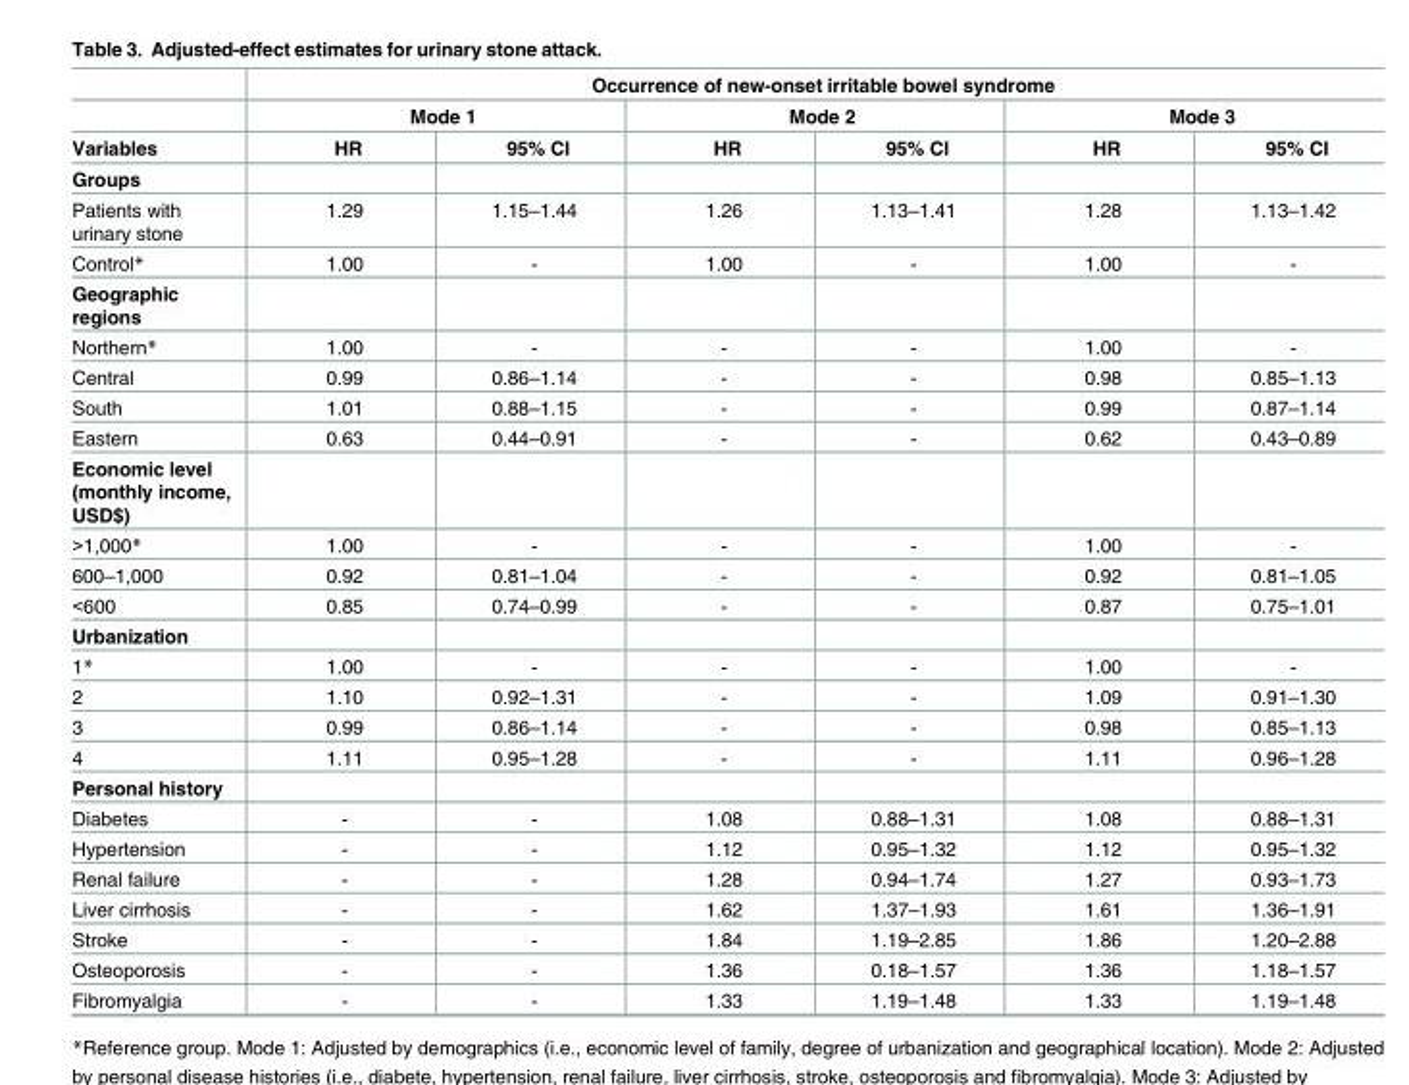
<table><thead><tr><td rowspan="3">Variables</td><td colspan="6">Occurrence of new-onset irritable bowel syndrome</td></tr><tr><td colspan="2">Mode 1</td><td colspan="2">Mode 2</td><td colspan="2">Mode 3</td></tr><tr><td>HR</td><td>95% CI</td><td>HR</td><td>95% CI</td><td>HR</td><td>95% CI</td></tr></thead><tbody><tr><td colspan="7">Groups</td></tr><tr><td>Patients with urinary stone</td><td>1.29</td><td>1.15–1.44</td><td>1.26</td><td>1.13–1.41</td><td>1.28</td><td>1.13–1.42</td></tr><tr><td>Control*</td><td>1.00</td><td>-</td><td>1.00</td><td>-</td><td>1.00</td><td>-</td></tr><tr><td colspan="7">Geographic regions</td></tr><tr><td>Northern*</td><td>1.00</td><td>-</td><td>-</td><td>-</td><td>1.00</td><td>-</td></tr><tr><td>Central</td><td>0.99</td><td>0.86–1.14</td><td>-</td><td>-</td><td>0.98</td><td>0.85–1.13</td></tr><tr><td>South</td><td>1.01</td><td>0.88–1.15</td><td>-</td><td>-</td><td>0.99</td><td>0.87–1.14</td></tr><tr><td>Eastern</td><td>0.63</td><td>0.44–0.91</td><td>-</td><td>-</td><td>0.62</td><td>0.43–0.89</td></tr><tr><td colspan="7">Economic level (monthly income, USD$)</td></tr><tr><td>&gt;1,000*</td><td>1.00</td><td>-</td><td>-</td><td>-</td><td>1.00</td><td>-</td></tr><tr><td>600–1,000</td><td>0.92</td><td>0.81–1.04</td><td>-</td><td>-</td><td>0.92</td><td>0.81–1.05</td></tr><tr><td>&lt;600</td><td>0.85</td><td>0.74–0.99</td><td>-</td><td>-</td><td>0.87</td><td>0.75–1.01</td></tr><tr><td colspan="7">Urbanization</td></tr><tr><td>1*</td><td>1.00</td><td>-</td><td>-</td><td>-</td><td>1.00</td><td>-</td></tr><tr><td>2</td><td>1.10</td><td>0.92–1.31</td><td>-</td><td>-</td><td>1.09</td><td>0.91–1.30</td></tr><tr><td>3</td><td>0.99</td><td>0.86–1.14</td><td>-</td><td>-</td><td>0.98</td><td>0.85–1.13</td></tr><tr><td>4</td><td>1.11</td><td>0.95–1.28</td><td>-</td><td>-</td><td>1.11</td><td>0.96–1.28</td></tr><tr><td colspan="7">Personal history</td></tr><tr><td>Diabetes</td><td>-</td><td>-</td><td>1.08</td><td>0.88–1.31</td><td>1.08</td><td>0.88–1.31</td></tr><tr><td>Hypertension</td><td>-</td><td>-</td><td>1.12</td><td>0.95–1.32</td><td>1.12</td><td>0.95–1.32</td></tr><tr><td>Renal failure</td><td>-</td><td>-</td><td>1.28</td><td>0.94–1.74</td><td>1.27</td><td>0.93–1.73</td></tr><tr><td>Liver cirrhosis</td><td>-</td><td>-</td><td>1.62</td><td>1.37–1.93</td><td>1.61</td><td>1.36–1.91</td></tr><tr><td>Stroke</td><td>-</td><td>-</td><td>1.84</td><td>1.19–2.85</td><td>1.86</td><td>1.20–2.88</td></tr><tr><td>Osteoporosis</td><td>-</td><td>-</td><td>1.36</td><td>0.18–1.57</td><td>1.36</td><td>1.18–1.57</td></tr><tr><td>Fibromyalgia</td><td>-</td><td>-</td><td>1.33</td><td>1.19–1.48</td><td>1.33</td><td>1.19–1.48</td></tr></tbody></table>